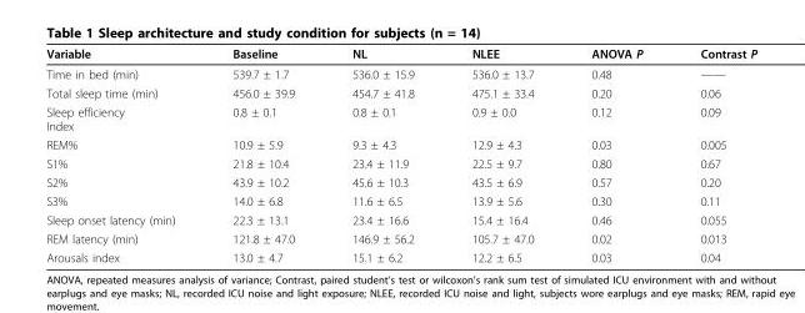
<table><thead><tr><td>Variable</td><td>Baseline</td><td>NL</td><td>NLEE</td><td>ANOVA P</td><td>Contrast P</td></tr></thead><tbody><tr><td>Time in bed (min)</td><td>539.7 ± 1.7</td><td>536.0 ± 15.9</td><td>536.0 ± 13.7</td><td>0.48</td><td>——</td></tr><tr><td>Total sleep time (min)</td><td>456.0 ± 39.9</td><td>454.7 ± 41.8</td><td>475.1 ± 33.4</td><td>0.20</td><td>0.06</td></tr><tr><td>Sleep efficiency Index</td><td>0.8 ± 0.1</td><td>0.8 ± 0.1</td><td>0.9 ± 0.0</td><td>0.12</td><td>0.09</td></tr><tr><td>REM%</td><td>10.9 ± 5.9</td><td>9.3 ± 4.3</td><td>12.9 ± 4.3</td><td>0.03</td><td>0.005</td></tr><tr><td>S1%</td><td>21.8 ± 10.4</td><td>23.4 ± 11.9</td><td>22.5 ± 9.7</td><td>0.80</td><td>0.67</td></tr><tr><td>S2%</td><td>43.9 ± 10.2</td><td>45.6 ± 10.3</td><td>43.5 ± 6.9</td><td>0.57</td><td>0.20</td></tr><tr><td>S3%</td><td>14.0 ± 6.8</td><td>11.6 ± 6.5</td><td>13.9 ± 5.6</td><td>0.30</td><td>0.11</td></tr><tr><td>Sleep onset latency (min)</td><td>22.3 ± 13.1</td><td>23.4 ± 16.6</td><td>15.4 ± 16.4</td><td>0.46</td><td>0.055</td></tr><tr><td>REM latency (min)</td><td>121.8 ± 47.0</td><td>146.9 ± 56.2</td><td>105.7 ± 47.0</td><td>0.02</td><td>0.013</td></tr><tr><td>Arousals index</td><td>13.0 ± 4.7</td><td>15.1 ± 6.2</td><td>12.2 ± 6.5</td><td>0.03</td><td>0.04</td></tr></tbody></table>